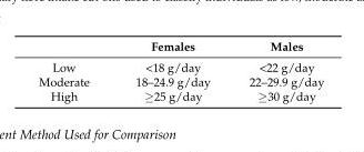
<table><thead><tr><td></td><td>Females</td><td>Males</td></tr></thead><tbody><tr><td>Low</td><td>&lt;18 g/day</td><td>&lt;22 g/day</td></tr><tr><td>Moderate</td><td>18–24.9 g/day</td><td>22–29.9 g/day</td></tr><tr><td>High</td><td>≥25 g/day</td><td>≥30 g/day</td></tr></tbody></table>